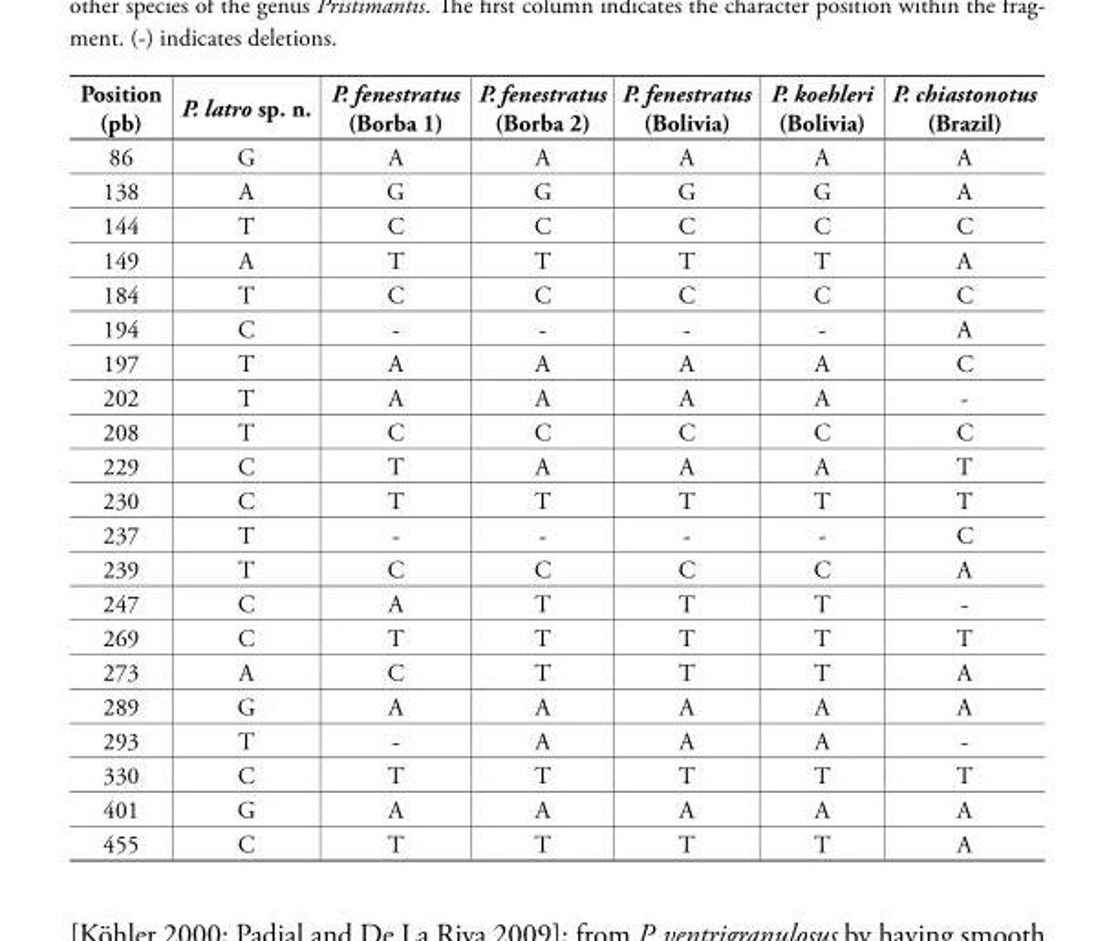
<table><thead><tr><td>Position (pb)</td><td>P. latro sp. n.</td><td>P. fenestratus (Borba 1)</td><td>P. fenestratus (Borba 2)</td><td>P. fenestratus (Bolivia)</td><td>P. koehleri (Bolivia)</td><td>P. chiastonotus (Brazil)</td></tr></thead><tbody><tr><td>86</td><td>G</td><td>A</td><td>A</td><td>A</td><td>A</td><td>A</td></tr><tr><td>138</td><td>A</td><td>G</td><td>G</td><td>G</td><td>G</td><td>A</td></tr><tr><td>144</td><td>T</td><td>C</td><td>C</td><td>C</td><td>C</td><td>C</td></tr><tr><td>149</td><td>A</td><td>T</td><td>T</td><td>T</td><td>T</td><td>A</td></tr><tr><td>184</td><td>T</td><td>C</td><td>C</td><td>C</td><td>C</td><td>C</td></tr><tr><td>194</td><td>C</td><td>-</td><td>-</td><td>-</td><td>-</td><td>A</td></tr><tr><td>197</td><td>T</td><td>A</td><td>A</td><td>A</td><td>A</td><td>C</td></tr><tr><td>202</td><td>T</td><td>A</td><td>A</td><td>A</td><td>A</td><td>-</td></tr><tr><td>208</td><td>T</td><td>C</td><td>C</td><td>C</td><td>C</td><td>C</td></tr><tr><td>229</td><td>C</td><td>T</td><td>A</td><td>A</td><td>A</td><td>T</td></tr><tr><td>230</td><td>C</td><td>T</td><td>T</td><td>T</td><td>T</td><td>T</td></tr><tr><td>237</td><td>T</td><td>-</td><td>-</td><td>-</td><td>-</td><td>C</td></tr><tr><td>239</td><td>T</td><td>C</td><td>C</td><td>C</td><td>C</td><td>A</td></tr><tr><td>247</td><td>C</td><td>A</td><td>T</td><td>T</td><td>T</td><td>-</td></tr><tr><td>269</td><td>C</td><td>T</td><td>T</td><td>T</td><td>T</td><td>T</td></tr><tr><td>273</td><td>A</td><td>C</td><td>T</td><td>T</td><td>T</td><td>A</td></tr><tr><td>289</td><td>G</td><td>A</td><td>A</td><td>A</td><td>A</td><td>A</td></tr><tr><td>293</td><td>T</td><td>-</td><td>A</td><td>A</td><td>A</td><td>-</td></tr><tr><td>330</td><td>C</td><td>T</td><td>T</td><td>T</td><td>T</td><td>T</td></tr><tr><td>401</td><td>G</td><td>A</td><td>A</td><td>A</td><td>A</td><td>A</td></tr><tr><td>455</td><td>C</td><td>T</td><td>T</td><td>T</td><td>T</td><td>A</td></tr></tbody></table>